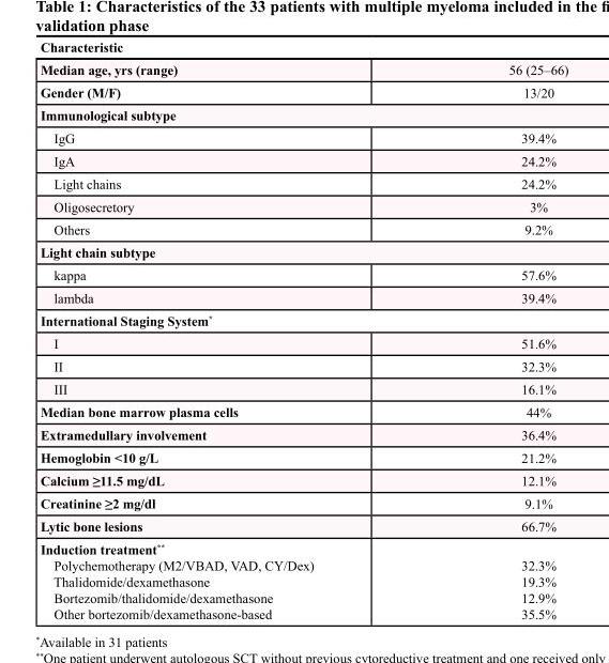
<table><thead><tr><td>Characteristic</td><td></td></tr></thead><tbody><tr><td>Median age, yrs (range)</td><td>56 (25–66)</td></tr><tr><td>Gender (M/F)</td><td>13/20</td></tr><tr><td colspan="2">Immunological subtype</td></tr><tr><td>IgG</td><td>39.4%</td></tr><tr><td>IgA</td><td>24.2%</td></tr><tr><td>Light chains</td><td>24.2%</td></tr><tr><td>Oligosecretory</td><td>3%</td></tr><tr><td>Others</td><td>9.2%</td></tr><tr><td colspan="2">Light chain subtype</td></tr><tr><td>kappa</td><td>57.6%</td></tr><tr><td>lambda</td><td>39.4%</td></tr><tr><td colspan="2">International Staging System*</td></tr><tr><td>I</td><td>51.6%</td></tr><tr><td>II</td><td>32.3%</td></tr><tr><td>III</td><td>16.1%</td></tr><tr><td>Median bone marrow plasma cells</td><td>44%</td></tr><tr><td>Extramedullary involvement</td><td>36.4%</td></tr><tr><td>Hemoglobin &lt;10 g/L</td><td>21.2%</td></tr><tr><td>Calcium ≥11.5 mg/dL</td><td>12.1%</td></tr><tr><td>Creatinine ≥2 mg/dl</td><td>9.1%</td></tr><tr><td>Lytic bone lesions</td><td>66.7%</td></tr><tr><td>Induction treatment** Polychemotherapy (M2/VBAD, VAD, CY/Dex) Thalidomide/dexamethasone Bortezomib/thalidomide/dexamethasone Other bortezomib/dexamethasone-based</td><td>32.3% 19.3% 12.9% 35.5%</td></tr></tbody></table>